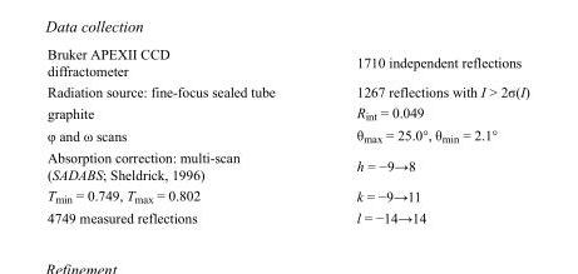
<table><tbody><tr><td>Bruker APEXII CCD diffractometer</td><td>1710 independent reflections</td></tr><tr><td>Radiation source: fine-focus sealed tube</td><td>1267 reflections with I &gt; 2σ(I)</td></tr><tr><td>graphite</td><td>R<sub>int</sub> = 0.049</td></tr><tr><td>φ and ω scans</td><td>θ<sub>max</sub> = 25.0°, θ<sub>min</sub> = 2.1°</td></tr><tr><td>Absorption correction: multi-scan (SADABS; Sheldrick, 1996)</td><td>h = −9→8</td></tr><tr><td>T<sub>min</sub> = 0.749, T<sub>max</sub> = 0.802</td><td>k = −9→11</td></tr><tr><td>4749 measured reflections</td><td>l = −14→14</td></tr></tbody></table>